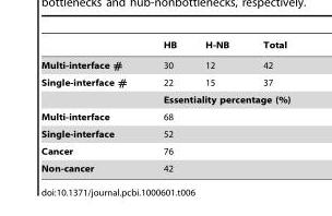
<table><thead><tr><td></td><td>HB</td><td>H-NB</td><td>Total</td></tr></thead><tbody><tr><td>Multi-interface #</td><td>30</td><td>12</td><td>42</td></tr><tr><td rowspan="2">Single-interface #</td><td>22</td><td>15</td><td>37</td></tr><tr><td colspan="3">Essentiality percentage (%)</td></tr><tr><td>Multi-interface</td><td colspan="3">68</td></tr><tr><td>Single-interface</td><td colspan="3">52</td></tr><tr><td>Cancer</td><td colspan="3">76</td></tr><tr><td>Non-cancer</td><td colspan="3">42</td></tr></tbody></table>